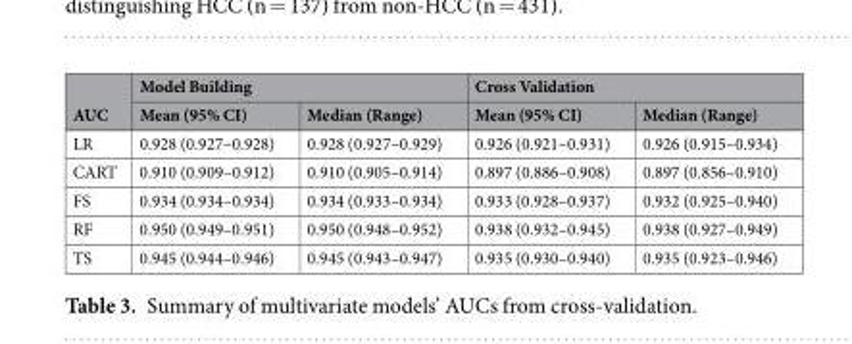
<table><thead><tr><td rowspan="2">AUC</td><td colspan="2">Model Building</td><td colspan="2">Cross Validation</td></tr><tr><td>Mean (95% CI)</td><td>Median (Range)</td><td>Mean (95% CI)</td><td>Median (Range)</td></tr></thead><tbody><tr><td>LR</td><td>0.928 (0.927–0.928)</td><td>0.928 (0.927–0.929)</td><td>0.926 (0.921–0.931)</td><td>0.926 (0.915–0.934)</td></tr><tr><td>CART</td><td>0.910 (0.909–0.912)</td><td>0.910 (0.905–0.914)</td><td>0.897 (0.886–0.908)</td><td>0.897 (0.856–0.910)</td></tr><tr><td>FS</td><td>0.934 (0.934–0.934)</td><td>0.934 (0.933–0.934)</td><td>0.933 (0.928–0.937)</td><td>0.932 (0.925–0.940)</td></tr><tr><td>RF</td><td>0.950 (0.949–0.951)</td><td>0.950 (0.948–0.952)</td><td>0.938 (0.932–0.945)</td><td>0.938 (0.927–0.949)</td></tr><tr><td>TS</td><td>0.945 (0.944–0.946)</td><td>0.945 (0.943–0.947)</td><td>0.935 (0.930–0.940)</td><td>0.935 (0.923–0.946)</td></tr></tbody></table>